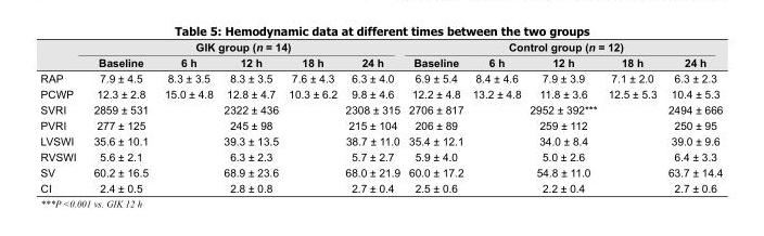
<table><thead><tr><td rowspan="2"></td><td colspan="5">GIK group (n = 14)</td><td colspan="5">Control group (n = 12)</td></tr><tr><td>Baseline</td><td>6 h</td><td>12 h</td><td>18 h</td><td>24 h</td><td>Baseline</td><td>6 h</td><td>12 h</td><td>18 h</td><td>24 h</td></tr></thead><tbody><tr><td>RAP</td><td>7.9 ± 4.5</td><td>8.3 ± 3.5</td><td>8.3 ± 3.5</td><td>7.6 ± 4.3</td><td>6.3 ± 4.0</td><td>6.9 ± 5.4</td><td>8.4 ± 4.6</td><td>7.9 ± 3.9</td><td>7.1 ± 2.0</td><td>6.3 ± 2.3</td></tr><tr><td>PCWP</td><td>12.3 ± 2.8</td><td>15.0 ± 4.8</td><td>12.8 ± 4.7</td><td>10.3 ± 6.2</td><td>9.8 ± 4.6</td><td>12.2 ± 4.8</td><td>13.2 ± 4.8</td><td>11.8 ± 3.6</td><td>12.5 ± 5.3</td><td>10.4 ± 5.3</td></tr><tr><td>SVRI</td><td>2859 ± 531</td><td></td><td>2322 ± 436</td><td></td><td>2308 ± 315</td><td>2706 ± 817</td><td></td><td>2952 ± 392***</td><td></td><td>2494 ± 666</td></tr><tr><td>PVRI</td><td>277 ± 12 5</td><td></td><td>245 ± 98</td><td></td><td>215 ± 104</td><td>206 ± 89</td><td></td><td>259 ± 112</td><td></td><td>250 ± 95</td></tr><tr><td>LVSWI</td><td>35.6 ± 10.1</td><td></td><td>39.3 ± 13.5</td><td></td><td>38.7 ± 11.0</td><td>35.4 ± 12.1</td><td></td><td>34.0 ± 8.4</td><td></td><td>39.0 ± 9.6</td></tr><tr><td>RVSWI</td><td>5.6 ± 2.1</td><td></td><td>6.3 ± 2.3</td><td></td><td>5.7 ± 2.7</td><td>5.9 ± 4.0</td><td></td><td>5.0 ± 2.6</td><td></td><td>6.4 ± 3.3</td></tr><tr><td>SV</td><td>60.2 ± 16.5</td><td></td><td>68.9 ± 23.6</td><td></td><td>68.0 ± 21.9</td><td>60.0 ± 17.2</td><td></td><td>54.8 ± 11.0</td><td></td><td>63.7 ± 14.4</td></tr><tr><td>CI</td><td>2.4 ± 0.5</td><td></td><td>2.8 ± 0.8</td><td></td><td>2.7 ± 0.4</td><td>2.5 ± 0.6</td><td></td><td>2.2 ± 0.4</td><td></td><td>2.7 ± 0.6</td></tr></tbody></table>